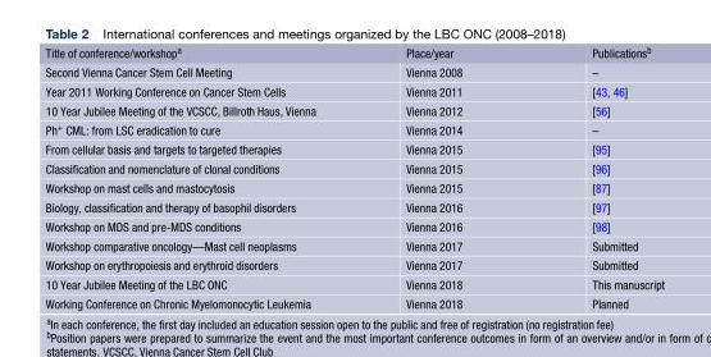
<table><thead><tr><td>Title of conference/workshop<sup>a</sup></td><td>Place/year</td><td>Publications<sup>b</sup></td></tr></thead><tbody><tr><td>Second Vienna Cancer Stem Cell Meeting</td><td>Vienna 2008</td><td>–</td></tr><tr><td>Year 2011 Working Conference on Cancer Stem Cells</td><td>Vienna 2011</td><td>[43, 46]</td></tr><tr><td>10 Year Jubilee Meeting of the VCSCC, Billroth Haus, Vienna</td><td>Vienna 2012</td><td>[56]</td></tr><tr><td>Ph<sup>+</sup> CML: from LSC eradication to cure</td><td>Vienna 2014</td><td>–</td></tr><tr><td>From cellular basis and targets to targeted therapies</td><td>Vienna 2015</td><td>[95]</td></tr><tr><td>Classification and nomenclature of clonal conditions</td><td>Vienna 2015</td><td>[96]</td></tr><tr><td>Workshop on mast cells and mastocytosis</td><td>Vienna 2015</td><td>[87]</td></tr><tr><td>Biology, classification and therapy of basophil disorders</td><td>Vienna 2016</td><td>[97]</td></tr><tr><td>Workshop on MDS and pre-MDS conditions</td><td>Vienna 2016</td><td>[98]</td></tr><tr><td>Workshop comparative oncology—Mast cell neoplasms</td><td>Vienna 2017</td><td>Submitted</td></tr><tr><td>Workshop on erythropoiesis and erythroid disorders</td><td>Vienna 2017</td><td>Submitted</td></tr><tr><td>10 Year Jubilee Meeting of the LBC ONC</td><td>Vienna 2018</td><td>This manuscript</td></tr><tr><td>Working Conference on Chronic Myelomonocytic Leukemia</td><td>Vienna 2018</td><td>Planned</td></tr></tbody></table>